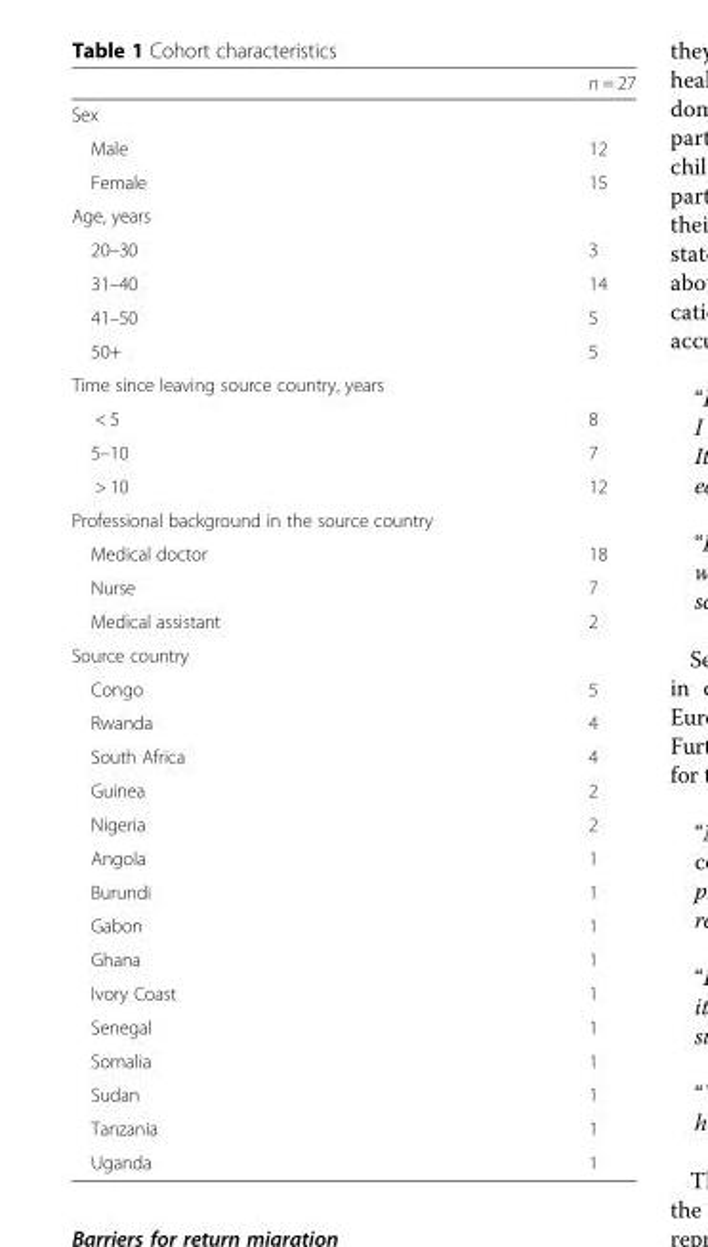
<table><thead><tr><td></td><td>n = 27</td></tr></thead><tbody><tr><td colspan="2">Sex</td></tr><tr><td>Male</td><td>12</td></tr><tr><td>Female</td><td>15</td></tr><tr><td colspan="2">Age, years</td></tr><tr><td>20–30</td><td>3</td></tr><tr><td>31–40</td><td>14</td></tr><tr><td>41–50</td><td>5</td></tr><tr><td>50+</td><td>5</td></tr><tr><td colspan="2">Time since leaving source country, years</td></tr><tr><td>&lt; 5</td><td>8</td></tr><tr><td>5–10</td><td>7</td></tr><tr><td>&gt; 10</td><td>12</td></tr><tr><td colspan="2">Professional background in the source country</td></tr><tr><td>Medical doctor</td><td>18</td></tr><tr><td>Nurse</td><td>7</td></tr><tr><td>Medical assistant</td><td>2</td></tr><tr><td colspan="2">Source country</td></tr><tr><td>Congo</td><td>5</td></tr><tr><td>Rwanda</td><td>4</td></tr><tr><td>South Africa</td><td>4</td></tr><tr><td>Guinea</td><td>2</td></tr><tr><td>Nigeria</td><td>2</td></tr><tr><td>Angola</td><td>1</td></tr><tr><td>Burundi</td><td>1</td></tr><tr><td>Gabon</td><td>1</td></tr><tr><td>Ghana</td><td>1</td></tr><tr><td>Ivory Coast</td><td>1</td></tr><tr><td>Senegal</td><td>1</td></tr><tr><td>Somalia</td><td>1</td></tr><tr><td>Sudan</td><td>1</td></tr><tr><td>Tanzania</td><td>1</td></tr><tr><td>Uganda</td><td>1</td></tr></tbody></table>